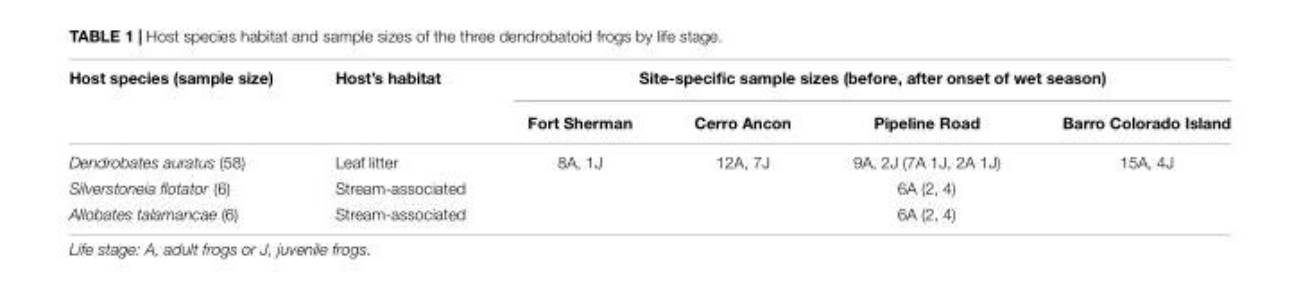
<table><thead><tr><td rowspan="2">Host species (sample size)</td><td rowspan="2">Host’s habitat</td><td colspan="4">Site-specific sample sizes (before, after onset of wet season)</td></tr><tr><td>Fort Sherman</td><td>Cerro Ancon</td><td>Pipeline Road</td><td>Barro Colorado Island</td></tr></thead><tbody><tr><td>Dendrobates auratus (58)</td><td>Leaf litter</td><td>8A, 1J</td><td>12A, 7J</td><td>9A, 2J (7A 1J, 2A 1J)</td><td>15A, 4J</td></tr><tr><td>Silverstoneia flotator (6)</td><td>Stream-associated</td><td></td><td></td><td>6A (2, 4)</td><td></td></tr><tr><td>Allobates talamancae (6)</td><td>Stream-associated</td><td></td><td></td><td>6A (2, 4)</td><td></td></tr></tbody></table>